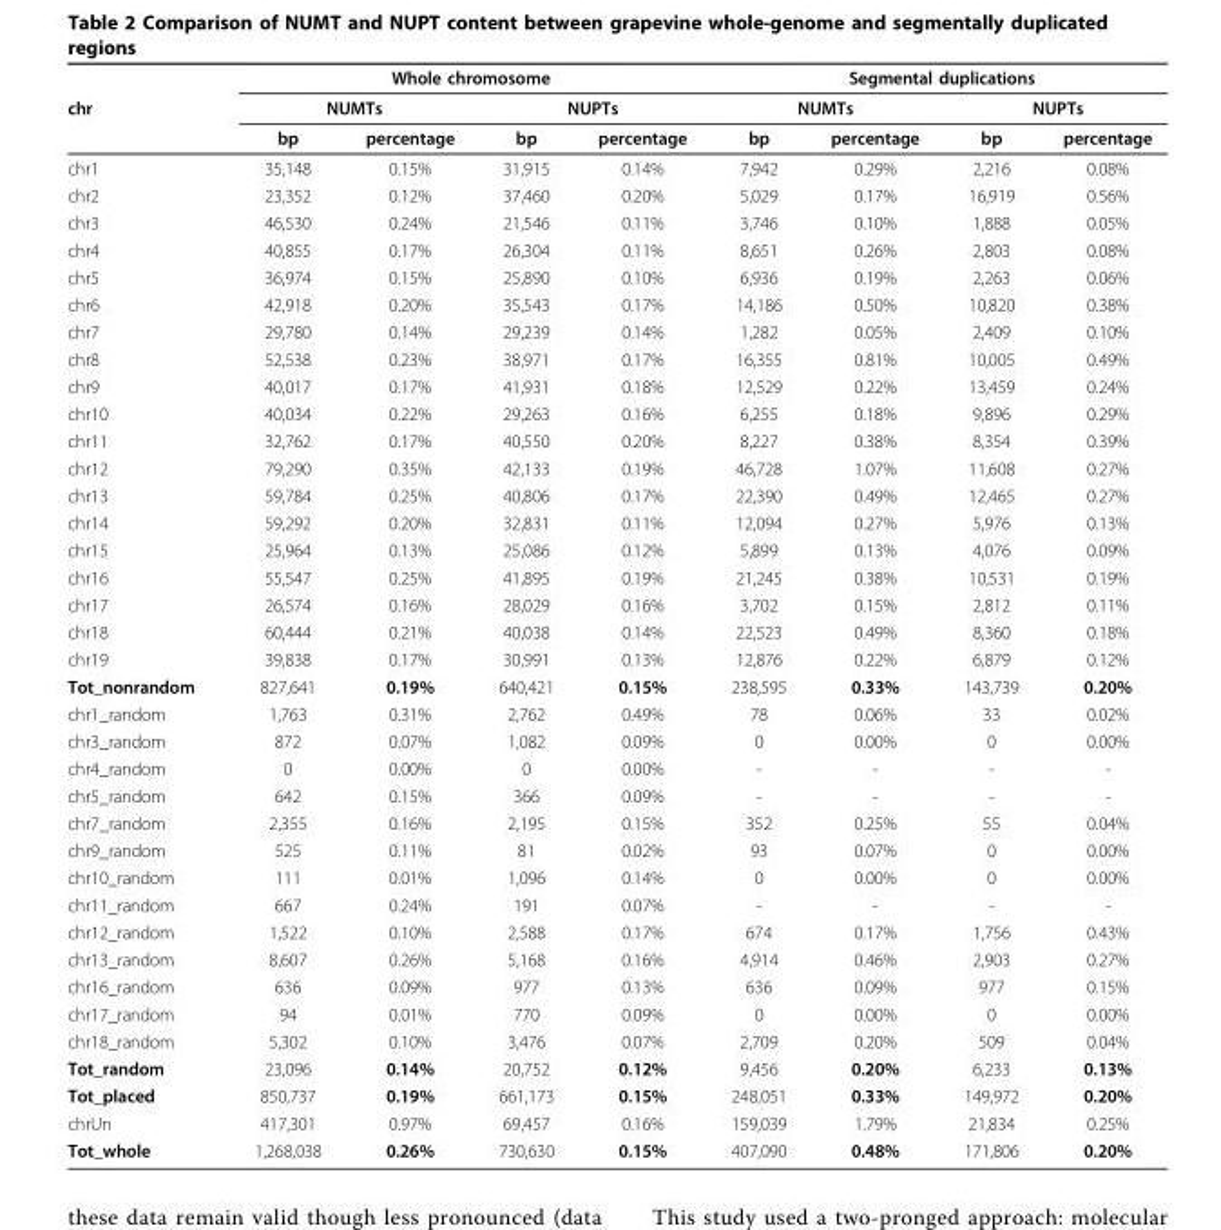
<table><thead><tr><td rowspan="3">chr</td><td colspan="4">Whole chromosome</td><td colspan="4">Segmental duplications</td></tr><tr><td colspan="2">NUMTs</td><td colspan="2">NUPTs</td><td colspan="2">NUMTs</td><td colspan="2">NUPTs</td></tr><tr><td>bp</td><td>percentage</td><td>bp</td><td>percentage</td><td>bp</td><td>percentage</td><td>bp</td><td>percentage</td></tr></thead><tbody><tr><td>chr1</td><td>35,148</td><td>0.15%</td><td>31,915</td><td>0.14%</td><td>7,942</td><td>0.29%</td><td>2,216</td><td>0.08%</td></tr><tr><td>chr2</td><td>23,352</td><td>0.12%</td><td>37,460</td><td>0.20%</td><td>5,029</td><td>0.17%</td><td>16,919</td><td>0.56%</td></tr><tr><td>chr3</td><td>46,530</td><td>0.24%</td><td>21,546</td><td>0.11%</td><td>3,746</td><td>0.10%</td><td>1,888</td><td>0.05%</td></tr><tr><td>chr4</td><td>40,855</td><td>0.17%</td><td>26,304</td><td>0.11%</td><td>8,651</td><td>0.26%</td><td>2,803</td><td>0.08%</td></tr><tr><td>chr5</td><td>36,974</td><td>0.15%</td><td>25,890</td><td>0.10%</td><td>6,936</td><td>0.19%</td><td>2,263</td><td>0.06%</td></tr><tr><td>chr6</td><td>42,918</td><td>0.20%</td><td>35,543</td><td>0.17%</td><td>14,186</td><td>0.50%</td><td>10,820</td><td>0.38%</td></tr><tr><td>chr7</td><td>29,780</td><td>0.14%</td><td>29,239</td><td>0.14%</td><td>1,282</td><td>0.05%</td><td>2,409</td><td>0.10%</td></tr><tr><td>chr8</td><td>52,538</td><td>0.23%</td><td>38,971</td><td>0.17%</td><td>16,355</td><td>0.81%</td><td>10,005</td><td>0.49%</td></tr><tr><td>chr9</td><td>40,017</td><td>0.17%</td><td>41,931</td><td>0.18%</td><td>12,529</td><td>0.22%</td><td>13,459</td><td>0.24%</td></tr><tr><td>chr10</td><td>40,034</td><td>0.22%</td><td>29,263</td><td>0.16%</td><td>6,255</td><td>0.18%</td><td>9,896</td><td>0.29%</td></tr><tr><td>chr11</td><td>32,762</td><td>0.17%</td><td>40,550</td><td>0.20%</td><td>8,227</td><td>0.38%</td><td>8,354</td><td>0.39%</td></tr><tr><td>chr12</td><td>79,290</td><td>0.35%</td><td>42,133</td><td>0.19%</td><td>46,728</td><td>1.07%</td><td>11,608</td><td>0.27%</td></tr><tr><td>chr13</td><td>59,784</td><td>0.25%</td><td>40,806</td><td>0.17%</td><td>22,390</td><td>0.49%</td><td>12,465</td><td>0.27%</td></tr><tr><td>chr14</td><td>59,292</td><td>0.20%</td><td>32,831</td><td>0.11%</td><td>12,094</td><td>0.27%</td><td>5,976</td><td>0.13%</td></tr><tr><td>chr15</td><td>25,964</td><td>0.13%</td><td>25,086</td><td>0.12%</td><td>5,899</td><td>0.13%</td><td>4,076</td><td>0.09%</td></tr><tr><td>chr16</td><td>55,547</td><td>0.25%</td><td>41,895</td><td>0.19%</td><td>21,245</td><td>0.38%</td><td>10,531</td><td>0.19%</td></tr><tr><td>chr17</td><td>26,574</td><td>0.16%</td><td>28,029</td><td>0.16%</td><td>3,702</td><td>0.15%</td><td>2,812</td><td>0.11%</td></tr><tr><td>chr18</td><td>60,444</td><td>0.21%</td><td>40,038</td><td>0.14%</td><td>22,523</td><td>0.49%</td><td>8,360</td><td>0.18%</td></tr><tr><td>chr19</td><td>39,838</td><td>0.17%</td><td>30,991</td><td>0.13%</td><td>12,876</td><td>0.22%</td><td>6,879</td><td>0.12%</td></tr><tr><td>Tot_nonrandom</td><td>827,641</td><td>0.19%</td><td>640,421</td><td>0.15%</td><td>238,595</td><td>0.33%</td><td>143,739</td><td>0.20%</td></tr><tr><td>chr1_random</td><td>1,763</td><td>0.31%</td><td>2,762</td><td>0.49%</td><td>78</td><td>0.06%</td><td>33</td><td>0.02%</td></tr><tr><td>chr3_random</td><td>872</td><td>0.07%</td><td>1,082</td><td>0.09%</td><td>0</td><td>0.00%</td><td>0</td><td>0.00%</td></tr><tr><td>chr4_random</td><td>0</td><td>0.00%</td><td>0</td><td>0.00%</td><td>-</td><td>-</td><td>-</td><td>-</td></tr><tr><td>chr5_random</td><td>642</td><td>0.15%</td><td>366</td><td>0.09%</td><td>-</td><td>-</td><td>-</td><td>-</td></tr><tr><td>chr7_random</td><td>2,355</td><td>0.16%</td><td>2,195</td><td>0.15%</td><td>352</td><td>0.25%</td><td>55</td><td>0.04%</td></tr><tr><td>chr9_random</td><td>525</td><td>0.11%</td><td>81</td><td>0.02%</td><td>93</td><td>0.07%</td><td>0</td><td>0.00%</td></tr><tr><td>chr10_random</td><td>111</td><td>0.01%</td><td>1,096</td><td>0.14%</td><td>0</td><td>0.00%</td><td>0</td><td>0.00%</td></tr><tr><td>chr11_random</td><td>667</td><td>0.24%</td><td>191</td><td>0.07%</td><td>-</td><td>-</td><td>-</td><td>-</td></tr><tr><td>chr12_random</td><td>1,522</td><td>0.10%</td><td>2,588</td><td>0.17%</td><td>674</td><td>0.17%</td><td>1,756</td><td>0.43%</td></tr><tr><td>chr13_random</td><td>8,607</td><td>0.26%</td><td>5,168</td><td>0.16%</td><td>4,914</td><td>0.46%</td><td>2,903</td><td>0.27%</td></tr><tr><td>chr16_random</td><td>636</td><td>0.09%</td><td>977</td><td>0.13%</td><td>636</td><td>0.09%</td><td>977</td><td>0.15%</td></tr><tr><td>chr17_random</td><td>94</td><td>0.01%</td><td>770</td><td>0.09%</td><td>0</td><td>0.00%</td><td>0</td><td>0.00%</td></tr><tr><td>chr18_random</td><td>5,302</td><td>0.10%</td><td>3,476</td><td>0.07%</td><td>2,709</td><td>0.20%</td><td>509</td><td>0.04%</td></tr><tr><td>Tot_random</td><td>23,096</td><td>0.14%</td><td>20,752</td><td>0.12%</td><td>9,456</td><td>0.20%</td><td>6,233</td><td>0.13%</td></tr><tr><td>Tot_placed</td><td>850,737</td><td>0.19%</td><td>661,173</td><td>0.15%</td><td>248,051</td><td>0.33%</td><td>149,972</td><td>0.20%</td></tr><tr><td>chrUn</td><td>417,301</td><td>0.97%</td><td>69,457</td><td>0.16%</td><td>159,039</td><td>1.79%</td><td>21,834</td><td>0.25%</td></tr><tr><td>Tot_whole</td><td>1,268,038</td><td>0.26%</td><td>730,630</td><td>0.15%</td><td>407,090</td><td>0.48%</td><td>171,806</td><td>0.20%</td></tr></tbody></table>